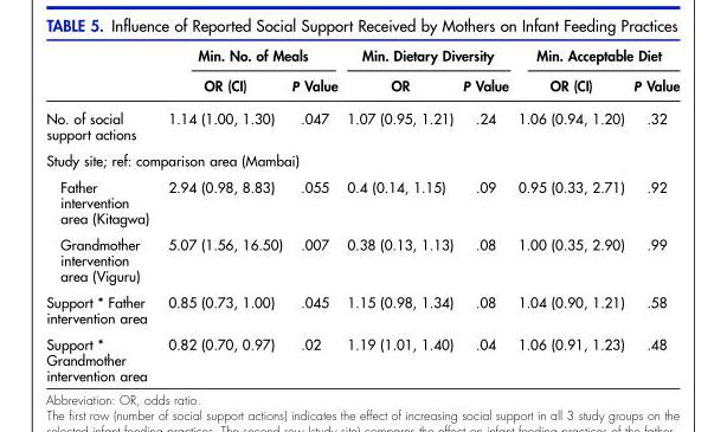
<table><thead><tr><td rowspan="2"></td><td colspan="2">Min. No. of Meals</td><td colspan="2">Min. Dietary Diversity</td><td colspan="2">Min. Acceptable Diet</td></tr><tr><td>OR (CI)</td><td>P Value</td><td>OR</td><td>P Value</td><td>OR (CI)</td><td>P Value</td></tr></thead><tbody><tr><td>No. of social support actions</td><td>1.14 (1.00, 1.30)</td><td>.047</td><td>1.07 (0.95, 1.21)</td><td>.24</td><td>1.06 (0.94, 1.20)</td><td>.32</td></tr><tr><td colspan="7">Study site; ref: comparison area (Mambai)</td></tr><tr><td>Father intervention area (Kitagwa)</td><td>2.94 (0.98, 8.83)</td><td>.055</td><td>0.4 (0.14, 1.15)</td><td>.09</td><td>0.95 (0.33, 2.71)</td><td>.92</td></tr><tr><td>Grandmother intervention area (Viguru)</td><td>5.07 (1.56, 16.50)</td><td>.007</td><td>0.38 (0.13, 1.13)</td><td>.08</td><td>1.00 (0.35, 2.90)</td><td>.99</td></tr><tr><td>Support * Father intervention area</td><td>0.85 (0.73, 1.00)</td><td>.045</td><td>1.15 (0.98, 1.34)</td><td>.08</td><td>1.04 (0.90, 1.21)</td><td>.58</td></tr><tr><td>Support * Grandmother intervention area</td><td>0.82 (0.70, 0.97)</td><td>.02</td><td>1.19 (1.01, 1.40)</td><td>.04</td><td>1.06 (0.91, 1.23)</td><td>.48</td></tr></tbody></table>